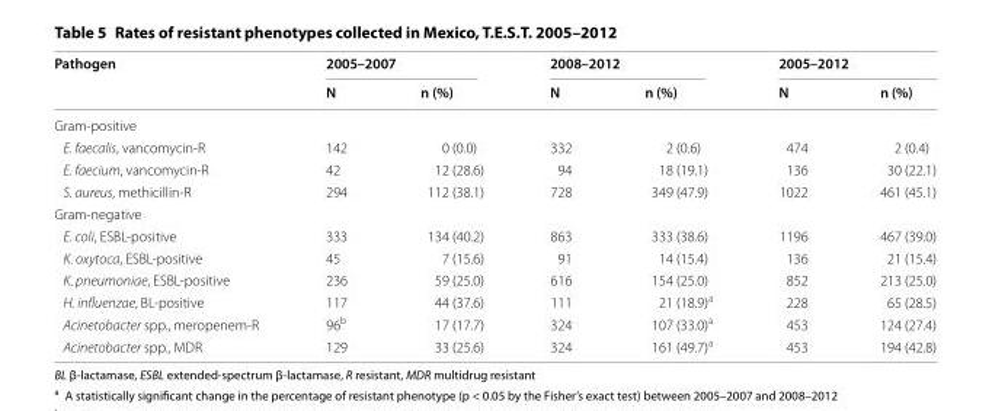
<table><thead><tr><td rowspan="2">Pathogen</td><td colspan="2">2005–2007</td><td colspan="2">2008–2012</td><td colspan="2">2005–2012</td></tr><tr><td>N</td><td>n (%)</td><td>N</td><td>n (%)</td><td>N</td><td>n (%)</td></tr></thead><tbody><tr><td colspan="7">Gram‑positive</td></tr><tr><td>E. faecalis, vancomycin‑R</td><td>142</td><td>0 (0.0)</td><td>332</td><td>2 (0.6)</td><td>474</td><td>2 (0.4)</td></tr><tr><td>E. faecium, vancomycin‑R</td><td>42</td><td>12 (28.6)</td><td>94</td><td>18 (19.1)</td><td>136</td><td>30 (22.1)</td></tr><tr><td>S. aureus, methicillin‑R</td><td>294</td><td>112 (38.1)</td><td>728</td><td>349 (47.9)</td><td>1022</td><td>461 (45.1)</td></tr><tr><td colspan="7">Gram‑negative</td></tr><tr><td>E. coli, ESBL‑positive</td><td>333</td><td>134 (40.2)</td><td>863</td><td>333 (38.6)</td><td>1196</td><td>467 (39.0)</td></tr><tr><td>K. oxytoca, ESBL‑positive</td><td>45</td><td>7 (15.6)</td><td>91</td><td>14 (15.4)</td><td>136</td><td>21 (15.4)</td></tr><tr><td>K. pneumoniae, ESBL‑positive</td><td>236</td><td>59 (25.0)</td><td>616</td><td>154 (25.0)</td><td>852</td><td>213 (25.0)</td></tr><tr><td>H. influenzae, BL‑positive</td><td>117</td><td>44 (37.6)</td><td>111</td><td>21 (18.9)<sup>a</sup></td><td>228</td><td>65 (28.5)</td></tr><tr><td>Acinetobacter spp., meropenem‑R</td><td>96<sup>b</sup></td><td>17 (17.7)</td><td>324</td><td>107 (33.0)<sup>a</sup></td><td>453</td><td>124 (27.4)</td></tr><tr><td>Acinetobacter spp., MDR</td><td>129</td><td>33 (25.6)</td><td>324</td><td>161 (49.7)<sup>a</sup></td><td>453</td><td>194 (42.8)</td></tr></tbody></table>